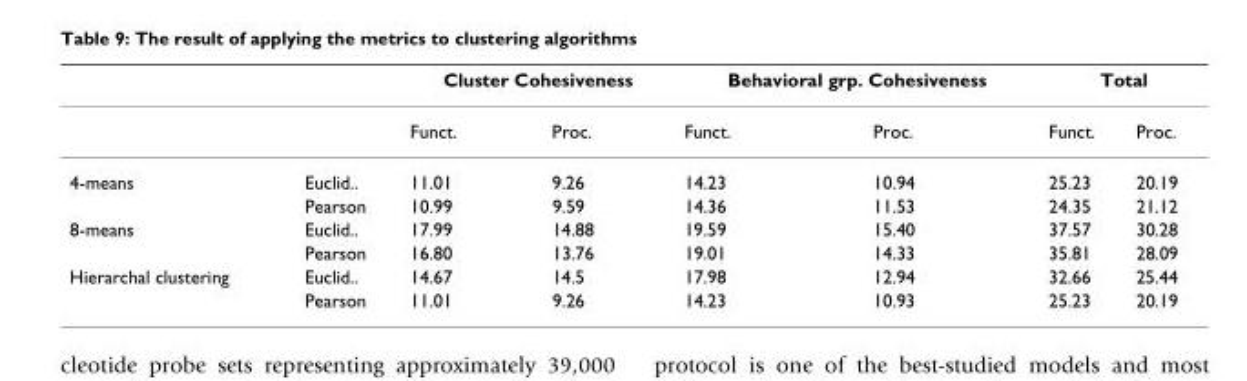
<table><thead><tr><td rowspan="2"></td><td rowspan="2"></td><td colspan="2">Cluster Cohesiveness</td><td colspan="2">Behavioral grp. Cohesiveness</td><td colspan="2">Total</td></tr><tr><td>Funct.</td><td>Proc.</td><td>Funct.</td><td>Proc.</td><td>Funct.</td><td>Proc.</td></tr></thead><tbody><tr><td rowspan="2">4-means</td><td>Euclid..</td><td>11.01</td><td>9.26</td><td>14.23</td><td>10.94</td><td>25.23</td><td>20.19</td></tr><tr><td>Pearson</td><td>10.99</td><td>9.59</td><td>14.36</td><td>11.53</td><td>24.35</td><td>21.12</td></tr><tr><td rowspan="2">8-means</td><td>Euclid..</td><td>17.99</td><td>14.88</td><td>19.59</td><td>15.40</td><td>37.57</td><td>30.28</td></tr><tr><td>Pearson</td><td>16.80</td><td>13.76</td><td>19.01</td><td>14.33</td><td>35.81</td><td>28.09</td></tr><tr><td rowspan="2">Hierarchal clustering</td><td>Euclid..</td><td>14.67</td><td>14.5</td><td>17.98</td><td>12.94</td><td>32.66</td><td>25.44</td></tr><tr><td>Pearson</td><td>11.01</td><td>9.26</td><td>14.23</td><td>10.93</td><td>25.23</td><td>20.19</td></tr></tbody></table>